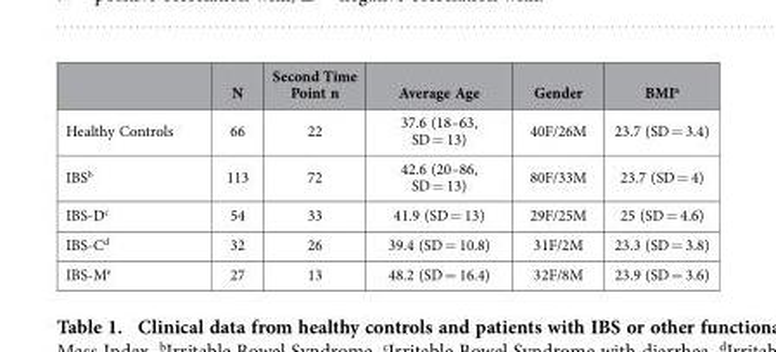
<table><thead><tr><td></td><td>N</td><td>Second Time Point n</td><td>Average Age</td><td>Gender</td><td>BMI<sup>a</sup></td></tr></thead><tbody><tr><td>Healthy Controls</td><td>66</td><td>22</td><td>37.6 (18–63, SD = 13)</td><td>40F/26M</td><td>23.7 (SD = 3.4)</td></tr><tr><td>IBS<sup>b</sup></td><td>113</td><td>72</td><td>42.6 (20–86, SD = 13)</td><td>80F/33M</td><td>23.7 (SD = 4)</td></tr><tr><td>IBS-D<sup>c</sup></td><td>54</td><td>33</td><td>41.9 (SD = 13)</td><td>29F/25M</td><td>25 (SD = 4.6)</td></tr><tr><td>IBS-C<sup>d</sup></td><td>32</td><td>26</td><td>39.4 (SD = 10.8)</td><td>31F/2M</td><td>23.3 (SD = 3.8)</td></tr><tr><td>IBS-M<sup>e</sup></td><td>27</td><td>13</td><td>48.2 (SD = 16.4)</td><td>32F/8M</td><td>23.9 (SD = 3.6)</td></tr></tbody></table>